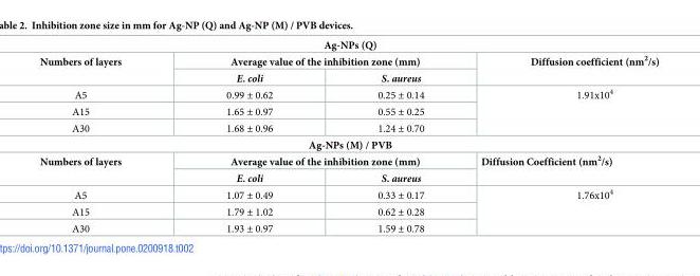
<table><tbody><tr><td colspan="4">Ag-NPs (Q)</td></tr><tr><td rowspan="2">Numbers of layers</td><td colspan="2">Average value of the inhibition zone (mm)</td><td rowspan="2">Diffusion coefficient (nm<sup>2</sup>/s)</td></tr><tr><td>E. coli</td><td>S. aureus</td></tr><tr><td>A5</td><td>0.99 ± 0.62</td><td>0.25 ± 0.14</td><td rowspan="3">1.91x10<sup>4</sup></td></tr><tr><td>A15</td><td>1.65 ± 0.97</td><td>0.55 ± 0.25</td></tr><tr><td>A30</td><td>1.68 ± 0.96</td><td>1.24 ± 0.70</td></tr><tr><td colspan="4">Ag-NPs (M) / PVB</td></tr><tr><td rowspan="2">Numbers of layers</td><td colspan="2">Average value of the inhibition zone (mm)</td><td rowspan="2">Diffusion Coefficient (nm<sup>2</sup>/s)</td></tr><tr><td>E. coli</td><td>S. aureus</td></tr><tr><td>A5</td><td>1.07 ± 0.49</td><td>0.33 ± 0.17</td><td rowspan="3">1.76x10<sup>4</sup></td></tr><tr><td>A15</td><td>1.79 ± 1.02</td><td>0.62 ± 0.28</td></tr><tr><td>A30</td><td>1.93 ± 0.97</td><td>1.59 ± 0.78</td></tr></tbody></table>